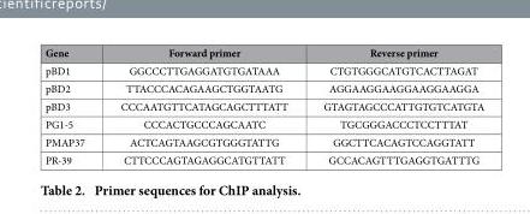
<table><thead><tr><td>Gene</td><td>Forward primer</td><td>Reverse primer</td></tr></thead><tbody><tr><td>pBD1</td><td>GGCCCTTGAGGATGTGATAAA</td><td>CTGTGGGCATGTCACTTAGAT</td></tr><tr><td>pBD2</td><td>TTACCCACAGAAGCTGGTAATG</td><td>AGGAAGGAAGGAAGGAAGGA</td></tr><tr><td>pBD3</td><td>CCCAATGTTCATAGCAGCTTTATT</td><td>GTAGTAGCCCATTGTGTCATGTA</td></tr><tr><td>PG1-5</td><td>CCCACTGCCCAGCAATC</td><td>TGCGGGACCCTCCTTTAT</td></tr><tr><td>PMAP37</td><td>ACTCAGTAAGCGTGGGTATTG</td><td>GGCTTCACAGTCCAGGTATT</td></tr><tr><td>PR-39</td><td>CTTCCCAGTAGAGGCATGTTATT</td><td>GCCACAGTTTGAGGTGATTTG</td></tr></tbody></table>